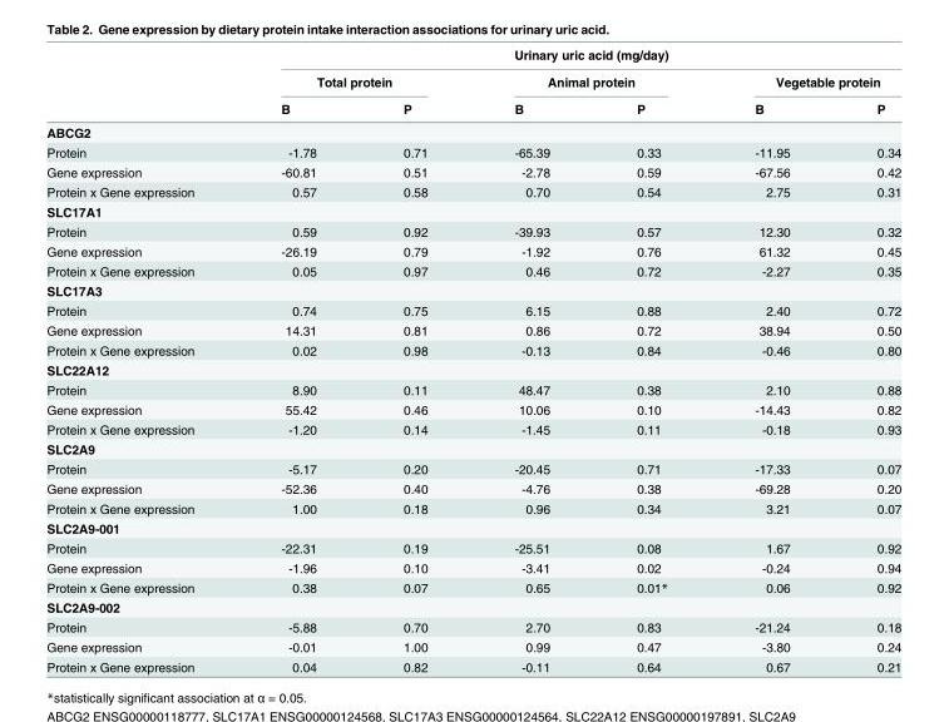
<table><thead><tr><td rowspan="3"></td><td colspan="6">Urinary uric acid (mg/day)</td></tr><tr><td colspan="2">Total protein</td><td colspan="2">Animal protein</td><td colspan="2">Vegetable protein</td></tr><tr><td>B</td><td>P</td><td>B</td><td>P</td><td>B</td><td>P</td></tr></thead><tbody><tr><td colspan="7">ABCG2</td></tr><tr><td>Protein</td><td>-1.78</td><td>0.71</td><td>-65.39</td><td>0.33</td><td>-11.95</td><td>0.34</td></tr><tr><td>Gene expression</td><td>-60.81</td><td>0.51</td><td>-2.78</td><td>0.59</td><td>-67.56</td><td>0.42</td></tr><tr><td>Protein x Gene expression</td><td>0.57</td><td>0.58</td><td>0.70</td><td>0.54</td><td>2.75</td><td>0.31</td></tr><tr><td colspan="7">SLC17A1</td></tr><tr><td>Protein</td><td>0.59</td><td>0.92</td><td>-39.93</td><td>0.57</td><td>12.30</td><td>0.32</td></tr><tr><td>Gene expression</td><td>-26.19</td><td>0.79</td><td>-1.92</td><td>0.76</td><td>61.32</td><td>0.45</td></tr><tr><td>Protein x Gene expression</td><td>0.05</td><td>0.97</td><td>0.46</td><td>0.72</td><td>-2.27</td><td>0.35</td></tr><tr><td colspan="7">SLC17A3</td></tr><tr><td>Protein</td><td>0.74</td><td>0.75</td><td>6.15</td><td>0.88</td><td>2.40</td><td>0.72</td></tr><tr><td>Gene expression</td><td>14.31</td><td>0.81</td><td>0.86</td><td>0.72</td><td>38.94</td><td>0.50</td></tr><tr><td>Protein x Gene expression</td><td>0.02</td><td>0.98</td><td>-0.13</td><td>0.84</td><td>-0.46</td><td>0.80</td></tr><tr><td colspan="7">SLC22A12</td></tr><tr><td>Protein</td><td>8.90</td><td>0.11</td><td>48.47</td><td>0.38</td><td>2.10</td><td>0.88</td></tr><tr><td>Gene expression</td><td>55.42</td><td>0.46</td><td>10.06</td><td>0.10</td><td>-14.43</td><td>0.82</td></tr><tr><td>Protein x Gene expression</td><td>-1.20</td><td>0.14</td><td>-1.45</td><td>0.11</td><td>-0.18</td><td>0.93</td></tr><tr><td colspan="7">SLC2A9</td></tr><tr><td>Protein</td><td>-5.17</td><td>0.20</td><td>-20.45</td><td>0.71</td><td>-17.33</td><td>0.07</td></tr><tr><td>Gene expression</td><td>-52.36</td><td>0.40</td><td>-4.76</td><td>0.38</td><td>-69.28</td><td>0.20</td></tr><tr><td>Protein x Gene expression</td><td>1.00</td><td>0.18</td><td>0.96</td><td>0.34</td><td>3.21</td><td>0.07</td></tr><tr><td colspan="7">SLC2A9-001</td></tr><tr><td>Protein</td><td>-22.31</td><td>0.19</td><td>-25.51</td><td>0.08</td><td>1.67</td><td>0.92</td></tr><tr><td>Gene expression</td><td>-1.96</td><td>0.10</td><td>-3.41</td><td>0.02</td><td>-0.24</td><td>0.94</td></tr><tr><td>Protein x Gene expression</td><td>0.38</td><td>0.07</td><td>0.65</td><td>0.01*</td><td>0.06</td><td>0.92</td></tr><tr><td colspan="7">SLC2A9-002</td></tr><tr><td>Protein</td><td>-5.88</td><td>0.70</td><td>2.70</td><td>0.83</td><td>-21.24</td><td>0.18</td></tr><tr><td>Gene expression</td><td>-0.01</td><td>1.00</td><td>0.99</td><td>0.47</td><td>-3.80</td><td>0.24</td></tr><tr><td>Protein x Gene expression</td><td>0.04</td><td>0.82</td><td>-0.11</td><td>0.64</td><td>0.67</td><td>0.21</td></tr></tbody></table>